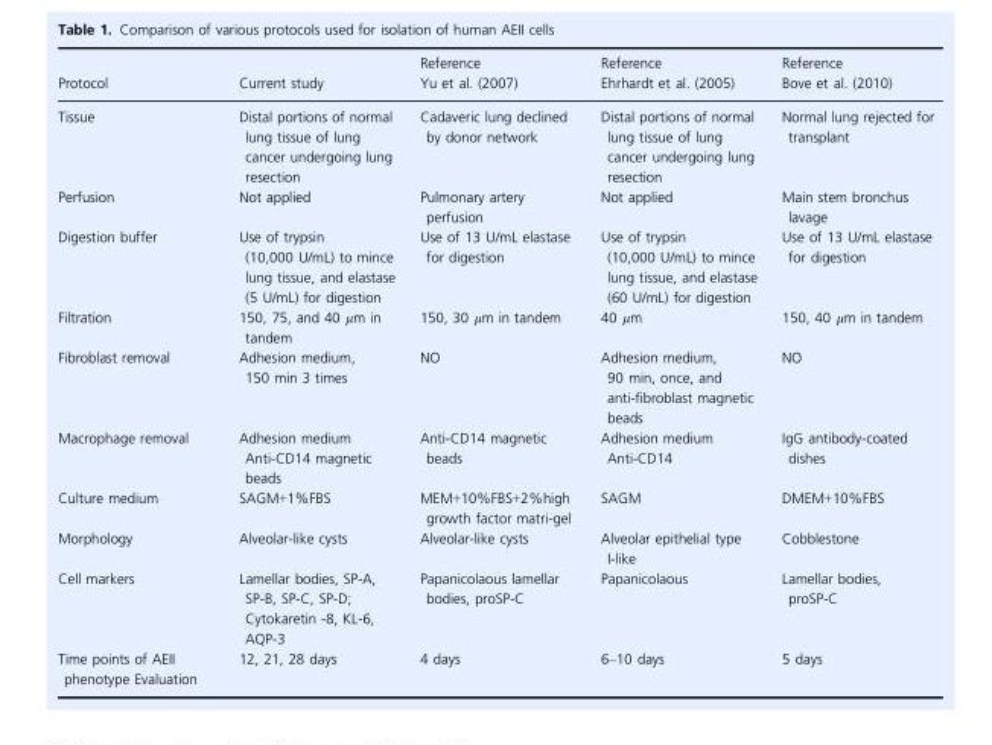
<table><thead><tr><td>Protocol</td><td>Current study</td><td>Reference Yu et al. (2007)</td><td>Reference Ehrhardt et al. (2005)</td><td>Reference Bove et al. (2010)</td></tr></thead><tbody><tr><td>Tissue</td><td>Distal portions of normal lung tissue of lung cancer undergoing lung resection</td><td>Cadaveric lung declined by donor network</td><td>Distal portions of normal lung tissue of lung cancer undergoing lung resection</td><td>Normal lung rejected for transplant</td></tr><tr><td>Perfusion</td><td>Not applied</td><td>Pulmonary artery perfusion</td><td>Not applied</td><td>Main stem bronchus lavage</td></tr><tr><td>Digestion buffer</td><td>Use of trypsin (10,000 U/mL) to mince lung tissue, and elastase (5 U/mL) for digestion</td><td>Use of 13 U/mL elastase for digestion</td><td>Use of trypsin (10,000 U/mL) to mince lung tissue, and elastase (60 U/mL) for digestion</td><td>Use of 13 U/mL elastase for digestion</td></tr><tr><td>Filtration</td><td>150, 75, and 40 μm in tandem</td><td>150, 30 μm in tandem</td><td>40 μm</td><td>150, 40 μm in tandem</td></tr><tr><td>Fibroblast removal</td><td>Adhesion medium, 150 min 3 times</td><td>NO</td><td>Adhesion medium, 90 min, once, and anti-fibroblast magnetic beads</td><td>NO</td></tr><tr><td>Macrophage removal</td><td>Adhesion medium Anti-CD14 magnetic beads</td><td>Anti-CD14 magnetic beads</td><td>Adhesion medium Anti-CD14</td><td>IgG antibody-coated dishes</td></tr><tr><td>Culture medium</td><td>SAGM+1%FBS</td><td>MEM+10%FBS+2%high growth factor matri-gel</td><td>SAGM</td><td>DMEM+10%FBS</td></tr><tr><td>Morphology</td><td>Alveolar-like cysts</td><td>Alveolar-like cysts</td><td>Alveolar epithelial type I-like</td><td>Cobblestone</td></tr><tr><td>Cell markers</td><td>Lamellar bodies, SP-A, SP-B, SP-C, SP-D; Cytokaretin -8, KL-6, AQP-3</td><td>Papanicolaous lamellar bodies, proSP-C</td><td>Papanicolaous</td><td>Lamellar bodies, proSP-C</td></tr><tr><td>Time points of AEII phenotype Evaluation</td><td>12, 21, 28 days</td><td>4 days</td><td>6–10 days</td><td>5 days</td></tr></tbody></table>